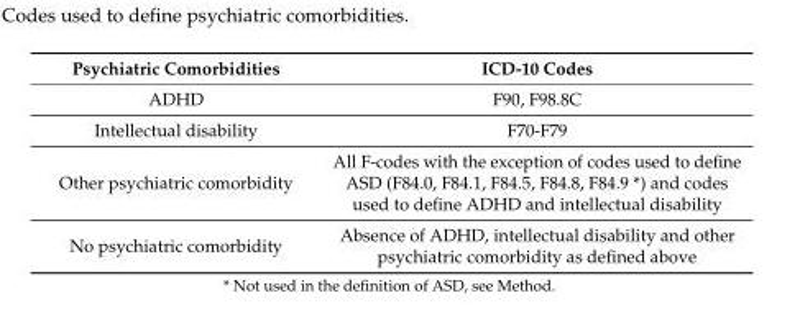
<table><thead><tr><td>Psychiatric Comorbidities</td><td>ICD-10 Codes</td></tr></thead><tbody><tr><td>ADHD</td><td>F90, F98.8C</td></tr><tr><td>Intellectual disability</td><td>F70-F79</td></tr><tr><td>Other psychiatric comorbidity</td><td>All F-codes with the exception of codes used to define ASD (F84.0, F84.1, F84.5, F84.8, F84.9 *) and codes used to define ADHD and intellectual disability</td></tr><tr><td>No psychiatric comorbidity</td><td>Absence of ADHD, intellectual disability and other psychiatric comorbidity as defined above</td></tr></tbody></table>